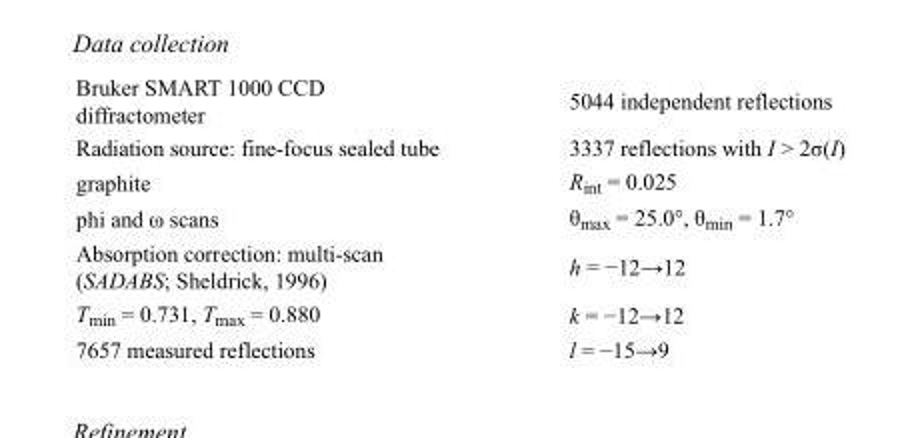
<table><tbody><tr><td>Bruker SMART 1000 CCD diffractometer</td><td>5044 independent reflections</td></tr><tr><td>Radiation source: fine-focus sealed tube</td><td>3337 reflections with I &gt; 2σ(I)</td></tr><tr><td>graphite</td><td>R<sub>int</sub> = 0.025</td></tr><tr><td>phi and ω scans</td><td>θ<sub>max</sub> = 25.0°, θ<sub>min</sub> = 1.7°</td></tr><tr><td>Absorption correction: multi-scan (SADABS; Sheldrick, 1996)</td><td>h = −12→12</td></tr><tr><td>T<sub>min</sub> = 0.731, T<sub>max</sub> = 0.880</td><td>k = −12→12</td></tr><tr><td>7657 measured reflections</td><td>l = −15→9</td></tr></tbody></table>